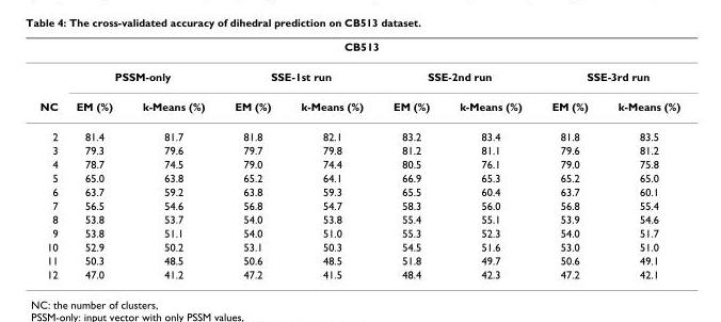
<table><thead><tr><td colspan="9">CB513</td></tr><tr><td rowspan="2">NC</td><td colspan="2">PSSM-only</td><td colspan="2">SSE-1st run</td><td colspan="2">SSE-2nd run</td><td colspan="2">SSE-3rd run</td></tr><tr><td>EM (%)</td><td>k-Means (%)</td><td>EM (%)</td><td>k-Means (%)</td><td>EM (%)</td><td>k-Means (%)</td><td>EM (%)</td><td>k-Means (%)</td></tr></thead><tbody><tr><td>2</td><td>81.4</td><td>81.7</td><td>81.8</td><td>82.1</td><td>83.2</td><td>83.4</td><td>81.8</td><td>83.5</td></tr><tr><td>3</td><td>79.3</td><td>79.6</td><td>79.7</td><td>79.8</td><td>81.2</td><td>81.1</td><td>79.6</td><td>81.2</td></tr><tr><td>4</td><td>78.7</td><td>74.5</td><td>79.0</td><td>74.4</td><td>80.5</td><td>76.1</td><td>79.0</td><td>75.8</td></tr><tr><td>5</td><td>65.0</td><td>63.8</td><td>65.2</td><td>64.1</td><td>66.9</td><td>65.3</td><td>65.2</td><td>65.0</td></tr><tr><td>6</td><td>63.7</td><td>59.2</td><td>63.8</td><td>59.3</td><td>65.5</td><td>60.4</td><td>63.7</td><td>60.1</td></tr><tr><td>7</td><td>56.5</td><td>54.6</td><td>56.8</td><td>54.7</td><td>58.3</td><td>56.0</td><td>56.8</td><td>55.4</td></tr><tr><td>8</td><td>53.8</td><td>53.7</td><td>54.0</td><td>53.8</td><td>55.4</td><td>55.1</td><td>53.9</td><td>54.6</td></tr><tr><td>9</td><td>53.8</td><td>51.1</td><td>54.0</td><td>51.0</td><td>55.3</td><td>52.3</td><td>54.0</td><td>51.7</td></tr><tr><td>10</td><td>52.9</td><td>50.2</td><td>53.1</td><td>50.3</td><td>54.5</td><td>51.6</td><td>53.0</td><td>51.0</td></tr><tr><td>11</td><td>50.3</td><td>48.5</td><td>50.6</td><td>48.5</td><td>51.8</td><td>49.7</td><td>50.6</td><td>49.1</td></tr><tr><td>12</td><td>47.0</td><td>41.2</td><td>47.2</td><td>41.5</td><td>48.4</td><td>42.3</td><td>47.2</td><td>42.1</td></tr></tbody></table>